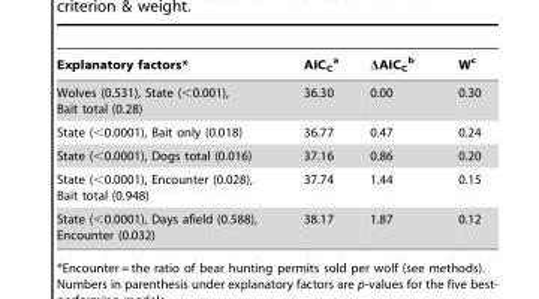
<table><thead><tr><td>Explanatory factors*</td><td>AIC<sub>C</sub> a</td><td>ΔAIC<sub>C</sub> b</td><td>W<sup>c</sup></td></tr></thead><tbody><tr><td>Wolves (0.531), State (&lt;0.001), Bait total (0.28)</td><td>36.30</td><td>0.00</td><td>0.30</td></tr><tr><td>State (&lt;0.0001), Bait only (0.018)</td><td>36.77</td><td>0.47</td><td>0.24</td></tr><tr><td>State (&lt;0.0001), Dogs total (0.016)</td><td>37.16</td><td>0.86</td><td>0.20</td></tr><tr><td>State (&lt;0.0001), Encounter (0.028), Bait total (0.948)</td><td>37.74</td><td>1.44</td><td>0.15</td></tr><tr><td>State (&lt;0.0001), Days afield (0.588), Encounter (0.032)</td><td>38.17</td><td>1.87</td><td>0.12</td></tr></tbody></table>